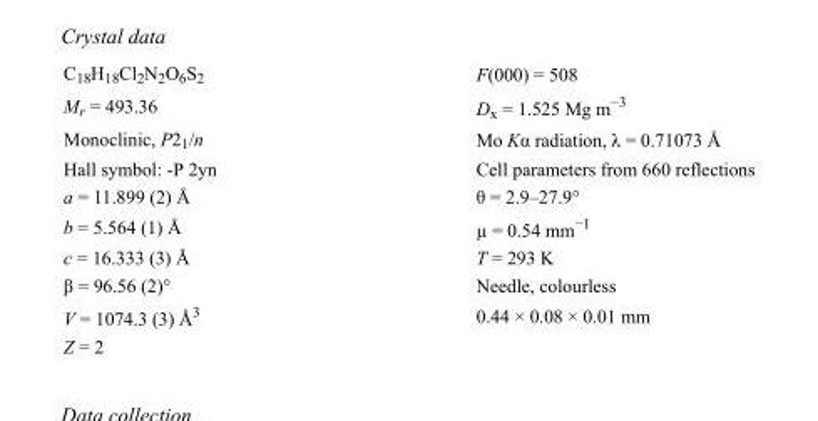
<table><tbody><tr><td>C<sub>18</sub>H<sub>18</sub>Cl<sub>2</sub>N<sub>2</sub>O<sub>6</sub>S<sub>2</sub></td><td>F(000) = 508</td></tr><tr><td>M<sub>r</sub> = 493.36</td><td>D<sub>x</sub> = 1.525 Mg m<sup>−3</sup></td></tr><tr><td>Monoclinic, P2<sub>1</sub>/n</td><td>Mo Kα radiation, λ = 0.71073 Å</td></tr><tr><td>Hall symbol: -P 2yn</td><td>Cell parameters from 660 reflections</td></tr><tr><td>a = 11.899 (2) Å</td><td>θ = 2.9–27.9°</td></tr><tr><td>b = 5.564 (1) Å</td><td>µ = 0.54 mm<sup>−1</sup></td></tr><tr><td>c = 16.333 (3) Å</td><td>T = 293 K</td></tr><tr><td>β = 96.56 (2)°</td><td>Needle, colourless</td></tr><tr><td>V = 1074.3 (3) Å<sup>3</sup></td><td>0.44 × 0.08 × 0.01 mm</td></tr><tr><td>Z = 2</td><td></td></tr></tbody></table>